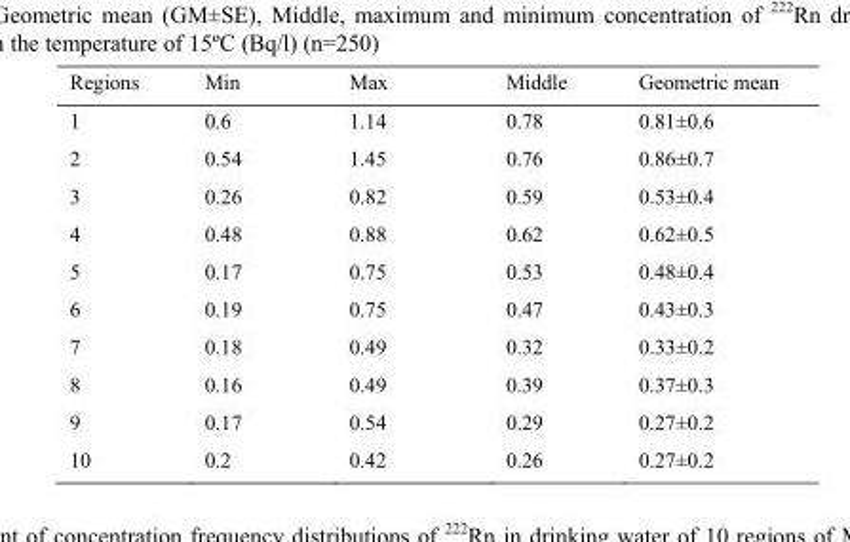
<table><thead><tr><td>Regions</td><td>Min</td><td>Max</td><td>Middle</td><td>Geometric mean</td></tr></thead><tbody><tr><td>1</td><td>0.6</td><td>1.14</td><td>0.78</td><td>0.81±0.6</td></tr><tr><td>2</td><td>0.54</td><td>1.45</td><td>0.76</td><td>0.86±0.7</td></tr><tr><td>3</td><td>0.26</td><td>0.82</td><td>0.59</td><td>0.53±0.4</td></tr><tr><td>4</td><td>0.48</td><td>0.88</td><td>0.62</td><td>0.62±0.5</td></tr><tr><td>5</td><td>0.17</td><td>0.75</td><td>0.53</td><td>0.48±0.4</td></tr><tr><td>6</td><td>0.19</td><td>0.75</td><td>0.47</td><td>0.43±0.3</td></tr><tr><td>7</td><td>0.18</td><td>0.49</td><td>0.32</td><td>0.33±0.2</td></tr><tr><td>8</td><td>0.16</td><td>0.49</td><td>0.39</td><td>0.37±0.3</td></tr><tr><td>9</td><td>0.17</td><td>0.54</td><td>0.29</td><td>0.27±0.2</td></tr><tr><td>10</td><td>0.2</td><td>0.42</td><td>0.26</td><td>0.27±0.2</td></tr></tbody></table>